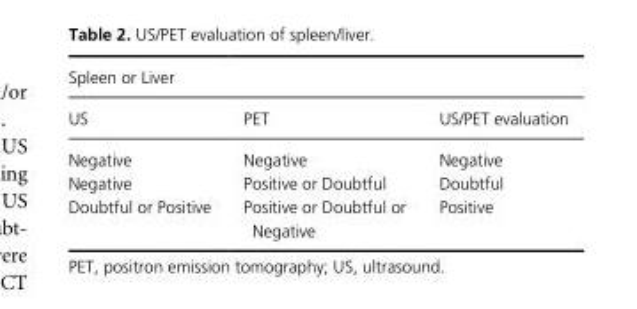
<table><thead><tr><td colspan="3">Spleen or Liver</td></tr><tr><td>US</td><td>PET</td><td>US/PET evaluation</td></tr></thead><tbody><tr><td>Negative</td><td>Negative</td><td>Negative</td></tr><tr><td>Negative</td><td>Positive or Doubtful</td><td>Doubtful</td></tr><tr><td>Doubtful or Positive</td><td>Positive or Doubtful or Negative</td><td>Positive</td></tr></tbody></table>